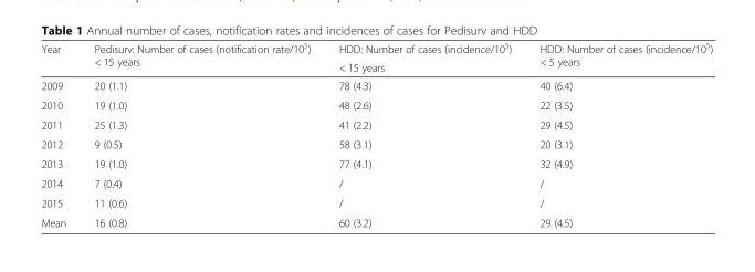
<table><thead><tr><td rowspan="2">Year</td><td rowspan="2">Pedisurv: Number of cases (notification rate/10<sup>5</sup>) &lt; 15 years</td><td rowspan="2">HDD: Number of cases (incidence/10<sup>5</sup>) &lt; 15 years</td><td rowspan="2">HDD: Number of cases (incidence/10<sup>5</sup>) &lt; 5 years</td></tr><tr></tr></thead><tbody><tr><td>2009</td><td>20 (1.1)</td><td>78 (4.3)</td><td>40 (6.4)</td></tr><tr><td>2010</td><td>19 (1.0)</td><td>48 (2.6)</td><td>22 (3.5)</td></tr><tr><td>2011</td><td>25 (1.3)</td><td>41 (2.2)</td><td>29 (4.5)</td></tr><tr><td>2012</td><td>9 (0.5)</td><td>58 (3.1)</td><td>20 (3.1)</td></tr><tr><td>2013</td><td>19 (1.0)</td><td>77 (4.1)</td><td>32 (4.9)</td></tr><tr><td>2014</td><td>7 (0.4)</td><td>/</td><td>/</td></tr><tr><td>2015</td><td>11 (0.6)</td><td>/</td><td>/</td></tr><tr><td>Mean</td><td>16 (0.8)</td><td>60 (3.2)</td><td>29 (4.5)</td></tr></tbody></table>